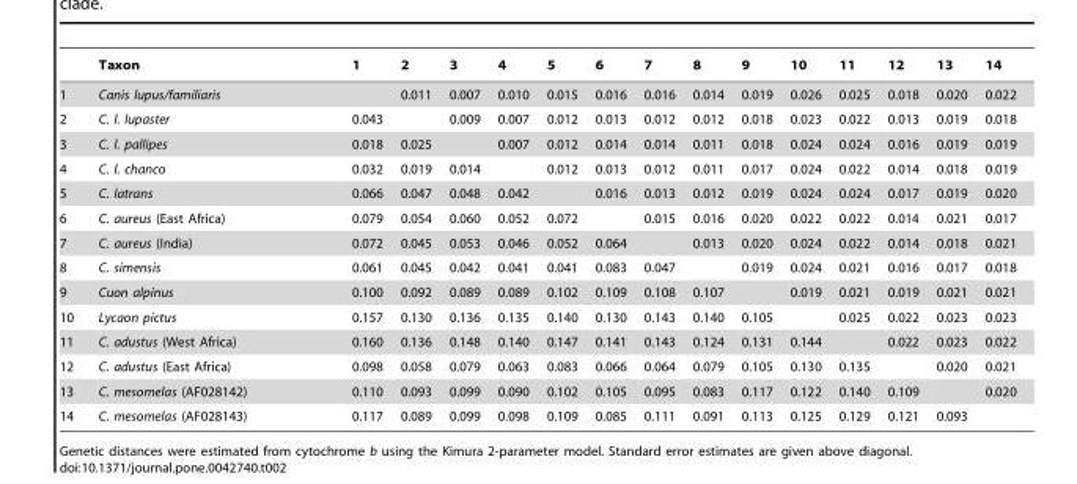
<table><thead><tr><td></td><td>Taxon</td><td>1</td><td>2</td><td>3</td><td>4</td><td>5</td><td>6</td><td>7</td><td>8</td><td>9</td><td>10</td><td>11</td><td>12</td><td>13</td><td>14</td></tr></thead><tbody><tr><td>1</td><td>Canis lupus/familiaris</td><td></td><td>0.011</td><td>0.007</td><td>0.010</td><td>0.015</td><td>0.016</td><td>0.016</td><td>0.014</td><td>0.019</td><td>0.026</td><td>0.025</td><td>0.018</td><td>0.020</td><td>0.022</td></tr><tr><td>2</td><td>C. l. lupaster</td><td>0.043</td><td></td><td>0.009</td><td>0.007</td><td>0.012</td><td>0.013</td><td>0.012</td><td>0.012</td><td>0.018</td><td>0.023</td><td>0.022</td><td>0.013</td><td>0.019</td><td>0.018</td></tr><tr><td>3</td><td>C. l. pallipes</td><td>0.018</td><td>0.025</td><td></td><td>0.007</td><td>0.012</td><td>0.014</td><td>0.014</td><td>0.011</td><td>0.018</td><td>0.024</td><td>0.024</td><td>0.016</td><td>0.019</td><td>0.019</td></tr><tr><td>4</td><td>C. l. chanco</td><td>0.032</td><td>0.019</td><td>0.014</td><td></td><td>0.012</td><td>0.013</td><td>0.012</td><td>0.011</td><td>0.017</td><td>0.024</td><td>0.022</td><td>0.014</td><td>0.018</td><td>0.019</td></tr><tr><td>5</td><td>C. latrans</td><td>0.066</td><td>0.047</td><td>0.048</td><td>0.042</td><td></td><td>0.016</td><td>0.013</td><td>0.012</td><td>0.019</td><td>0.024</td><td>0.024</td><td>0.017</td><td>0.019</td><td>0.020</td></tr><tr><td>6</td><td>C. aureus (East Africa)</td><td>0.079</td><td>0.054</td><td>0.060</td><td>0.052</td><td>0.072</td><td></td><td>0.015</td><td>0.016</td><td>0.020</td><td>0.022</td><td>0.022</td><td>0.014</td><td>0.021</td><td>0.017</td></tr><tr><td>7</td><td>C. aureus (India)</td><td>0.072</td><td>0.045</td><td>0.053</td><td>0.046</td><td>0.052</td><td>0.064</td><td></td><td>0.013</td><td>0.020</td><td>0.024</td><td>0.022</td><td>0.014</td><td>0.018</td><td>0.021</td></tr><tr><td>8</td><td>C. simensis</td><td>0.061</td><td>0.045</td><td>0.042</td><td>0.041</td><td>0.041</td><td>0.083</td><td>0.047</td><td></td><td>0.019</td><td>0.024</td><td>0.021</td><td>0.016</td><td>0.017</td><td>0.018</td></tr><tr><td>9</td><td>Cuon alpinus</td><td>0.100</td><td>0.092</td><td>0.089</td><td>0.089</td><td>0.102</td><td>0.109</td><td>0.108</td><td>0.107</td><td></td><td>0.019</td><td>0.021</td><td>0.019</td><td>0.021</td><td>0.021</td></tr><tr><td>10</td><td>Lycaon pictus</td><td>0.157</td><td>0.130</td><td>0.136</td><td>0.135</td><td>0.140</td><td>0.130</td><td>0.143</td><td>0.140</td><td>0.105</td><td></td><td>0.025</td><td>0.022</td><td>0.023</td><td>0.023</td></tr><tr><td>11</td><td>C. adustus (West Africa)</td><td>0.160</td><td>0.136</td><td>0.148</td><td>0.140</td><td>0.147</td><td>0.141</td><td>0.143</td><td>0.124</td><td>0.131</td><td>0.144</td><td></td><td>0.022</td><td>0.023</td><td>0.022</td></tr><tr><td>12</td><td>C. adustus (East Africa)</td><td>0.098</td><td>0.058</td><td>0.079</td><td>0.063</td><td>0.083</td><td>0.066</td><td>0.064</td><td>0.079</td><td>0.105</td><td>0.130</td><td>0.135</td><td></td><td>0.020</td><td>0.021</td></tr><tr><td>13</td><td>C. mesomelas (AF028142)</td><td>0.110</td><td>0.093</td><td>0.099</td><td>0.090</td><td>0.102</td><td>0.105</td><td>0.095</td><td>0.083</td><td>0.117</td><td>0.122</td><td>0.140</td><td>0.109</td><td></td><td>0.020</td></tr><tr><td>14</td><td>C. mesomelas (AF028143)</td><td>0.117</td><td>0.089</td><td>0.099</td><td>0.098</td><td>0.109</td><td>0.085</td><td>0.111</td><td>0.091</td><td>0.113</td><td>0.125</td><td>0.129</td><td>0.121</td><td>0.093</td><td></td></tr></tbody></table>